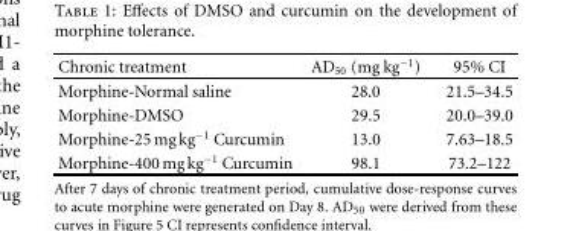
<table><thead><tr><td>Chronic treatment</td><td>AD<sub>50</sub> (mg kg<sup>−1</sup>)</td><td>95% CI</td></tr></thead><tbody><tr><td>Morphine-Normal saline</td><td>28.0</td><td>21.5–34.5</td></tr><tr><td>Morphine-DMSO</td><td>29.5</td><td>20.0–39.0</td></tr><tr><td>Morphine-25 mg kg<sup>−1</sup> Curcumin</td><td>13.0</td><td>7.63–18.5</td></tr><tr><td>Morphine-400 mg kg<sup>−1</sup> Curcumin</td><td>98.1</td><td>73.2–122</td></tr></tbody></table>